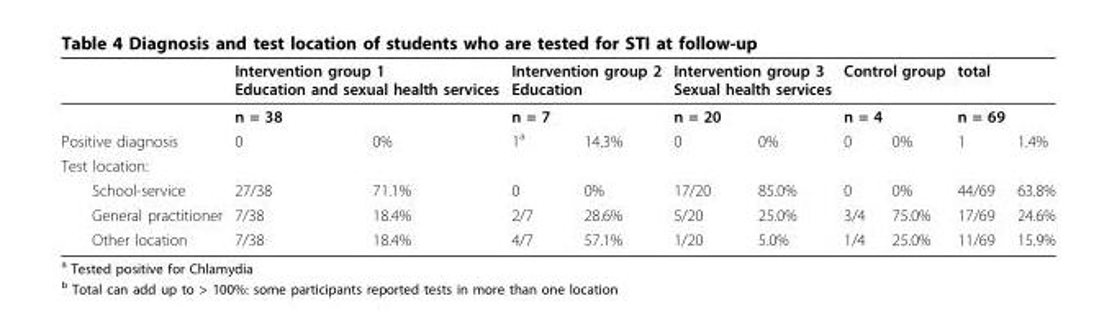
<table><thead><tr><td rowspan="3">Positive diagnosis</td><td rowspan="2" colspan="2">Intervention group 1 Education and sexual health services n = 38</td><td rowspan="2" colspan="2">Intervention group 2 Education n = 7</td><td rowspan="2" colspan="2">Intervention group 3 Sexual health services n = 20</td><td rowspan="2" colspan="2">Control group n = 4</td><td rowspan="3">total n = 69 1</td><td rowspan="3">1.4%</td></tr><tr></tr><tr><td>0</td><td>0%</td><td>1<sup>a</sup></td><td>14.3%</td><td>0</td><td>0%</td><td>0</td><td>0%</td></tr></thead><tbody><tr><td colspan="11">Test location:</td></tr><tr><td>School-service</td><td>27/38</td><td>71.1%</td><td>0</td><td>0%</td><td>17/20</td><td>85.0%</td><td>0</td><td>0%</td><td>44/69</td><td>63.8%</td></tr><tr><td>General practitioner</td><td>7/38</td><td>18.4%</td><td>2/7</td><td>28.6%</td><td>5/20</td><td>25.0%</td><td>3/4</td><td>75.0%</td><td>17/69</td><td>24.6%</td></tr><tr><td>Other location</td><td>7/38</td><td>18.4%</td><td>4/7</td><td>57.1%</td><td>1/20</td><td>5.0%</td><td>1/4</td><td>25.0%</td><td>11/69</td><td>15.9%</td></tr></tbody></table>